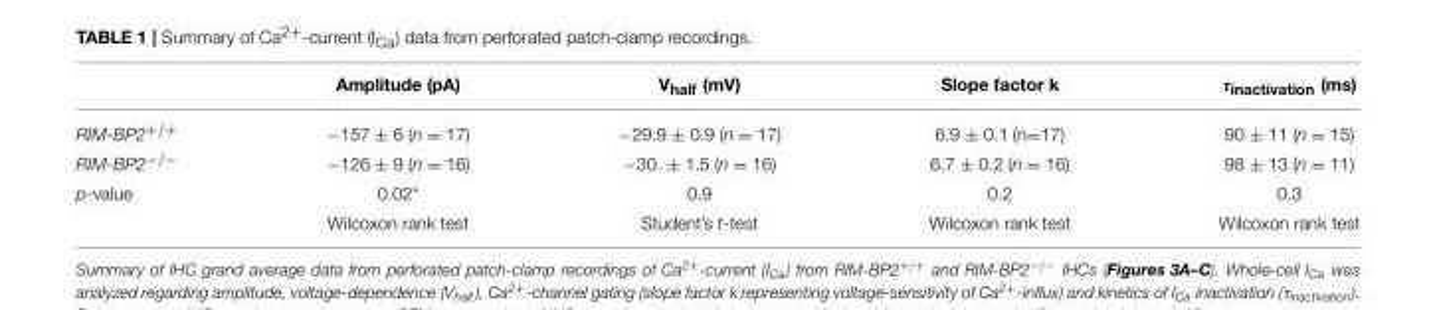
<table><thead><tr><td></td><td>Amplitude (pA)</td><td>V<sub>half</sub> (mV)</td><td>Slope factor k</td><td>τ<sub>inactivation</sub> (ms)</td></tr></thead><tbody><tr><td>RIM-BP2<sup>+/+</sup></td><td>−157 ± 6 (n = 17)</td><td>−29.9 ± 0.9 (n = 17)</td><td>6.9 ± 0.1 (n=17)</td><td>90 ± 11 (n = 15)</td></tr><tr><td>RIM-BP2<sup>−/−</sup></td><td>−126 ± 9 (n = 16)</td><td>−30. ± 1.5 (n = 16)</td><td>6.7 ± 0.2 (n = 16)</td><td>98 ± 13 (n = 11)</td></tr><tr><td rowspan="2">p-value</td><td>0.02*</td><td>0.9</td><td>0.2</td><td>0.3</td></tr><tr><td>Wilcoxon rank test</td><td>Student’s t-test</td><td>Wilcoxon rank test</td><td>Wilcoxon rank test</td></tr></tbody></table>